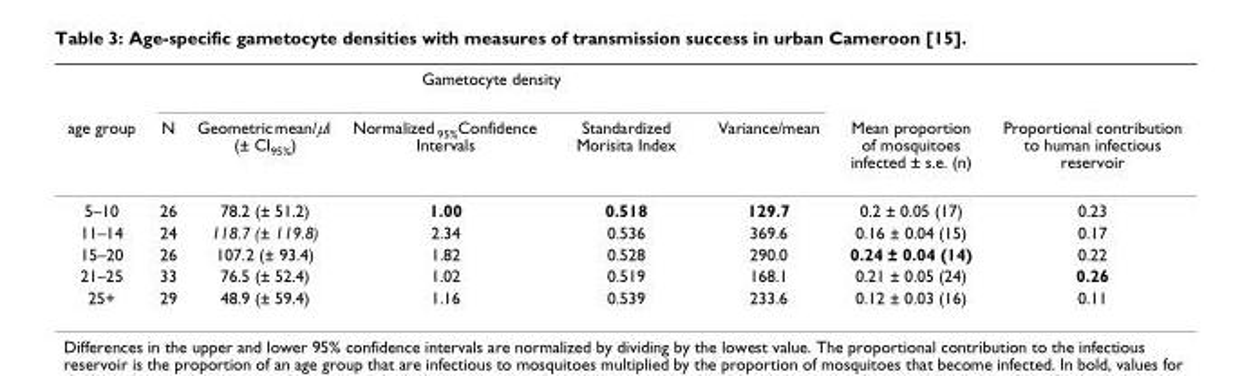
<table><thead><tr><td rowspan="2">age group</td><td colspan="5">Gametocyte density</td><td rowspan="2">Mean proportion of mosquitoes infected ± s.e. (n)</td><td rowspan="2">Proportional contribution to human infectious reservoir</td></tr><tr><td>N</td><td>Geometric mean/μl (± CI<sub>95%</sub>)</td><td>Normalized <sub>95%</sub>Confidence Intervals</td><td>Standardized Morisita Index</td><td>Variance/mean</td></tr></thead><tbody><tr><td>5–10</td><td>26</td><td>78.2 (± 51.2)</td><td>1.00</td><td>0.518</td><td>129.7</td><td>0.2 ± 0.05 (17)</td><td>0.23</td></tr><tr><td>11–14</td><td>24</td><td>118.7 (± 119.8)</td><td>2.34</td><td>0.536</td><td>369.6</td><td>0.16 ± 0.04 (15)</td><td>0.17</td></tr><tr><td>15–20</td><td>26</td><td>107.2 (± 93.4)</td><td>1.82</td><td>0.528</td><td>290.0</td><td>0.24 ± 0.04 (14)</td><td>0.22</td></tr><tr><td>21–25</td><td>33</td><td>76.5 (± 52.4)</td><td>1.02</td><td>0.519</td><td>168.1</td><td>0.21 ± 0.05 (24)</td><td>0.26</td></tr><tr><td>25+</td><td>29</td><td>48.9 (± 59.4)</td><td>1.16</td><td>0.539</td><td>233.6</td><td>0.12 ± 0.03 (16)</td><td>0.11</td></tr></tbody></table>